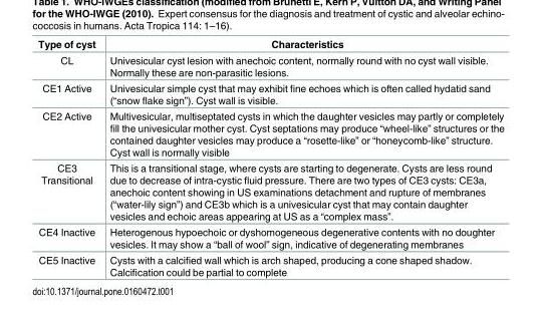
<table><thead><tr><td>Type of cyst</td><td>Characteristics</td></tr></thead><tbody><tr><td>CL</td><td>Univesicular cyst lesion with anechoic content, normally round with no cyst wall visible. Normally these are non-parasitic lesions.</td></tr><tr><td>CE1 Active</td><td>Univesicular simple cyst that may exhibit fine echoes which is often called hydatid sand (“snow flake sign”). Cyst wall is visible.</td></tr><tr><td>CE2 Active</td><td>Multivesicular, multiseptated cysts in which the daughter vesicles may partly or completely fill the univesicular mother cyst. Cyst septations may produce “wheel-like” structures or the contained daughter vesicles may produce a “rosette-like” or “honeycomb-like” structure. Cyst wall is normally visible</td></tr><tr><td>CE3 Transitional</td><td>This is a transitional stage, where cysts are starting to degenerate. Cysts are less round due to decrease of intra-cystic fluid pressure. There are two types of CE3 cysts: CE3a, anechoic content showing in US examinations detachment and rupture of membranes (“water-lily sign”) and CE3b which is a univesicular cyst that may contain daughter vesicles and echoic areas appearing at US as a “complex mass”.</td></tr><tr><td>CE4 Inactive</td><td>Heterogenous hypoechoic or dyshomogeneous degenerative contents with no doughter vesicles. It may show a “ball of wool” sign, indicative of degenerating membranes</td></tr><tr><td>CE5 Inactive</td><td>Cysts with a calcified wall which is arch shaped, producing a cone shaped shadow. Calcification could be partial to complete</td></tr></tbody></table>